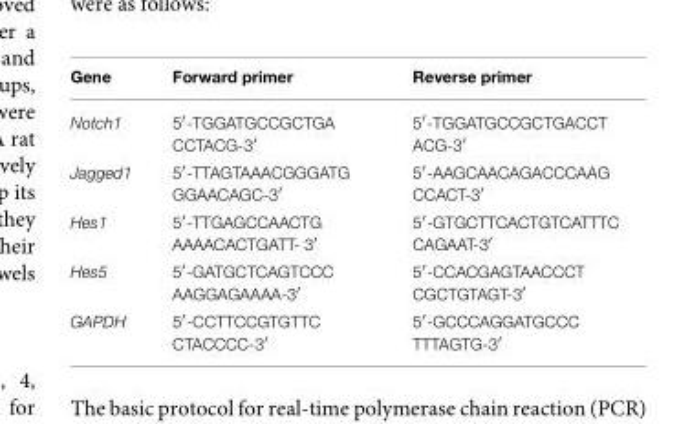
<table><thead><tr><td>Gene</td><td>Forward primer</td><td>Reverse primer</td></tr></thead><tbody><tr><td>Notch1</td><td>5′-TGGATGCCGCTGA CCTACG-3′</td><td>5′-TGGATGCCGCTGACCT ACG-3′</td></tr><tr><td>Jagged1</td><td>5′-TTAGTAAACGGGATG GGAACAGC-3′</td><td>5′-AAGCAACAGACCCAAG CCACT-3′</td></tr><tr><td>Hes1</td><td>5′-TTGAGCCAACTG AAAACACTGATT- 3′</td><td>5′-GTGCTTCACTGTCATTTC CAGAAT-3′</td></tr><tr><td>Hes5</td><td>5′-GATGCTCAGTCCC AAGGAGAAAA-3′</td><td>5′-CCACGAGTAACCCT CGCTGTAGT-3′</td></tr><tr><td>GAPDH</td><td>5′-CCTTCCGTGTTC CTACCCC-3′</td><td>5′-GCCCAGGATGCCC TTTAGTG-3′</td></tr></tbody></table>